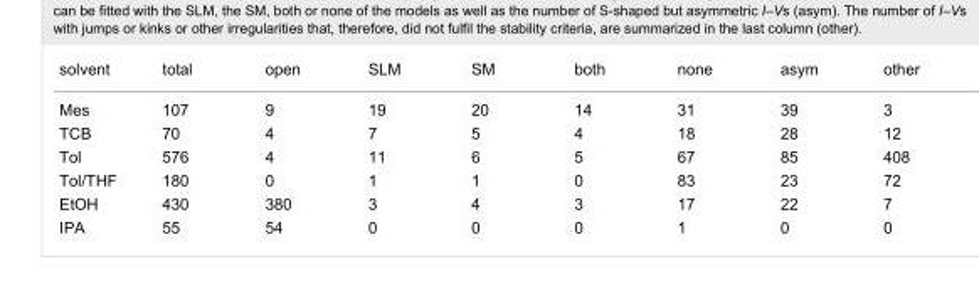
<table><tbody><tr><td>solvent</td><td>total</td><td>open</td><td>SLM</td><td>SM</td><td>both</td><td>none</td><td>asym</td><td>other</td></tr><tr><td>Mes</td><td>107</td><td>9</td><td>19</td><td>20</td><td>14</td><td>31</td><td>39</td><td>3</td></tr><tr><td>TCB</td><td>70</td><td>4</td><td>7</td><td>5</td><td>4</td><td>18</td><td>28</td><td>12</td></tr><tr><td>Tol</td><td>576</td><td>4</td><td>11</td><td>6</td><td>5</td><td>67</td><td>85</td><td>408</td></tr><tr><td>Tol/THF</td><td>180</td><td>0</td><td>1</td><td>1</td><td>0</td><td>83</td><td>23</td><td>72</td></tr><tr><td>EtOH</td><td>430</td><td>380</td><td>3</td><td>4</td><td>3</td><td>17</td><td>22</td><td>7</td></tr><tr><td>IPA</td><td>55</td><td>54</td><td>0</td><td>0</td><td>0</td><td>1</td><td>0</td><td>0</td></tr></tbody></table>